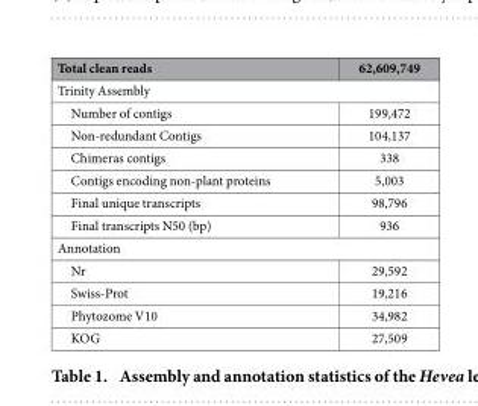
<table><thead><tr><td>Total clean reads</td><td>62,609,749</td></tr></thead><tbody><tr><td colspan="2">Trinity Assembly</td></tr><tr><td>Number of contigs</td><td>199,472</td></tr><tr><td>Non-redundant Contigs</td><td>104,137</td></tr><tr><td>Chimeras contigs</td><td>338</td></tr><tr><td>Contigs encoding non-plant proteins</td><td>5,003</td></tr><tr><td>Final unique transcripts</td><td>98,796</td></tr><tr><td>Final transcripts N50 (bp)</td><td>936</td></tr><tr><td colspan="2">Annotation</td></tr><tr><td>Nr</td><td>29,592</td></tr><tr><td>Swiss-Prot</td><td>19,216</td></tr><tr><td>Phytozome V10</td><td>34,982</td></tr><tr><td>KOG</td><td>27,509</td></tr></tbody></table>